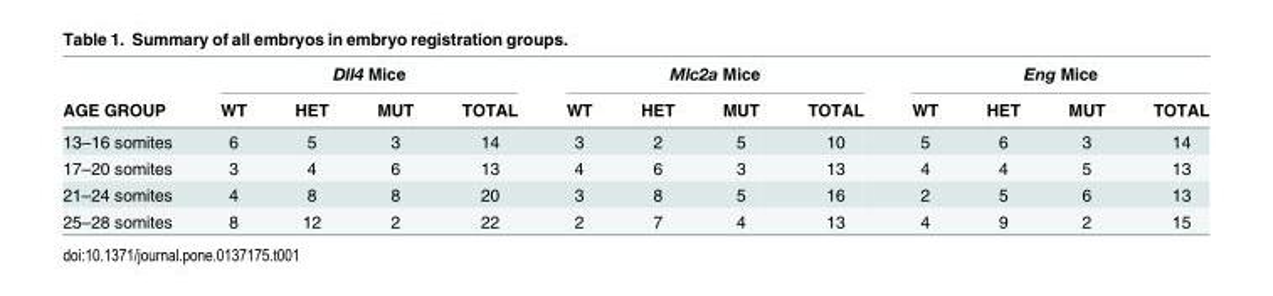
<table><thead><tr><td rowspan="2">AGE GROUP</td><td colspan="4">Dll4 Mice</td><td colspan="4">Mlc2a Mice</td><td colspan="4">Eng Mice</td></tr><tr><td>WT</td><td>HET</td><td>MUT</td><td>TOTAL</td><td>WT</td><td>HET</td><td>MUT</td><td>TOTAL</td><td>WT</td><td>HET</td><td>MUT</td><td>TOTAL</td></tr></thead><tbody><tr><td>13–16 somites</td><td>6</td><td>5</td><td>3</td><td>14</td><td>3</td><td>2</td><td>5</td><td>10</td><td>5</td><td>6</td><td>3</td><td>14</td></tr><tr><td>17–20 somites</td><td>3</td><td>4</td><td>6</td><td>13</td><td>4</td><td>6</td><td>3</td><td>13</td><td>4</td><td>4</td><td>5</td><td>13</td></tr><tr><td>21–24 somites</td><td>4</td><td>8</td><td>8</td><td>20</td><td>3</td><td>8</td><td>5</td><td>16</td><td>2</td><td>5</td><td>6</td><td>13</td></tr><tr><td>25–28 somites</td><td>8</td><td>12</td><td>2</td><td>22</td><td>2</td><td>7</td><td>4</td><td>13</td><td>4</td><td>9</td><td>2</td><td>15</td></tr></tbody></table>